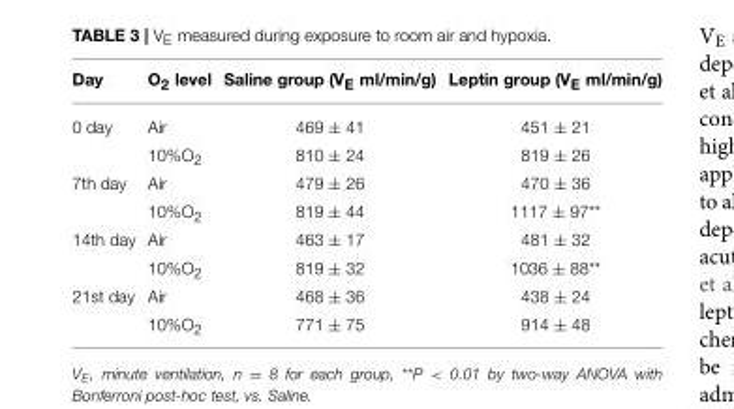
<table><thead><tr><td>Day</td><td>O<sub>2</sub> level</td><td>Saline group (V<sub>E</sub> ml/min/g)</td><td>Leptin group (V<sub>E</sub> ml/min/g)</td></tr></thead><tbody><tr><td rowspan="2">0 day</td><td>Air</td><td>469 ± 41</td><td>451 ± 21</td></tr><tr><td>10%O<sub>2</sub></td><td>810 ± 24</td><td>819 ± 26</td></tr><tr><td rowspan="2">7th day</td><td>Air</td><td>479 ± 26</td><td>470 ± 36</td></tr><tr><td>10%O<sub>2</sub></td><td>819 ± 44</td><td>1117 ± 97**</td></tr><tr><td rowspan="2">14th day</td><td>Air</td><td>463 ± 17</td><td>481 ± 32</td></tr><tr><td>10%O<sub>2</sub></td><td>819 ± 32</td><td>1036 ± 88**</td></tr><tr><td rowspan="2">21st day</td><td>Air</td><td>468 ± 36</td><td>438 ± 24</td></tr><tr><td>10%O<sub>2</sub></td><td>771 ± 75</td><td>914 ± 48</td></tr></tbody></table>